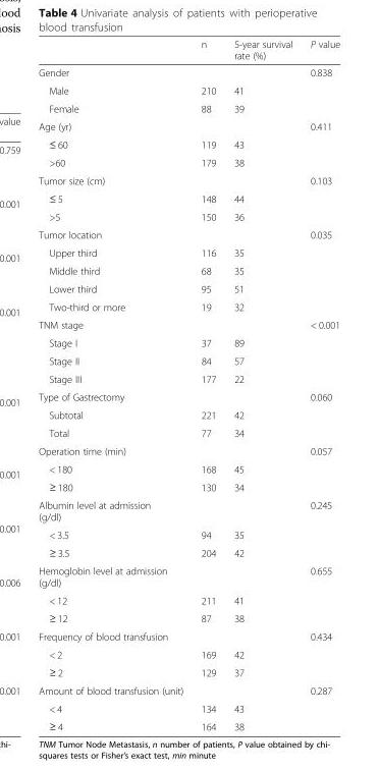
<table><thead><tr><td></td><td>n</td><td>5-year survival rate (%)</td><td>P value</td></tr></thead><tbody><tr><td>Gender</td><td></td><td></td><td>0.838</td></tr><tr><td>Male</td><td>210</td><td>41</td><td></td></tr><tr><td>Female</td><td>88</td><td>39</td><td></td></tr><tr><td>Age (yr)</td><td></td><td></td><td>0.411</td></tr><tr><td>≤ 60</td><td>119</td><td>43</td><td></td></tr><tr><td>&gt;60</td><td>179</td><td>38</td><td></td></tr><tr><td>Tumor size (cm)</td><td></td><td></td><td>0.103</td></tr><tr><td>≤ 5</td><td>148</td><td>44</td><td></td></tr><tr><td>&gt;5</td><td>150</td><td>36</td><td></td></tr><tr><td>Tumor location</td><td></td><td></td><td>0.035</td></tr><tr><td>Upper third</td><td>116</td><td>35</td><td></td></tr><tr><td>Middle third</td><td>68</td><td>35</td><td></td></tr><tr><td>Lower third</td><td>95</td><td>51</td><td></td></tr><tr><td>Two-third or more</td><td>19</td><td>32</td><td></td></tr><tr><td>TNM stage</td><td></td><td></td><td>&lt; 0.001</td></tr><tr><td>Stage I</td><td>37</td><td>89</td><td></td></tr><tr><td>Stage II</td><td>84</td><td>57</td><td></td></tr><tr><td>Stage III</td><td>177</td><td>22</td><td></td></tr><tr><td>Type of Gastrectomy</td><td></td><td></td><td>0.060</td></tr><tr><td>Subtotal</td><td>221</td><td>42</td><td></td></tr><tr><td>Total</td><td>77</td><td>34</td><td></td></tr><tr><td>Operation time (min)</td><td></td><td></td><td>0.057</td></tr><tr><td>&lt; 180</td><td>168</td><td>45</td><td></td></tr><tr><td>≥ 180</td><td>130</td><td>34</td><td></td></tr><tr><td>Albumin level at admission (g/dl)</td><td></td><td></td><td>0.245</td></tr><tr><td>&lt; 3.5</td><td>94</td><td>35</td><td></td></tr><tr><td>≥ 3.5</td><td>204</td><td>42</td><td></td></tr><tr><td>Hemoglobin level at admission (g/dl)</td><td></td><td></td><td>0.655</td></tr><tr><td>&lt; 12</td><td>211</td><td>41</td><td></td></tr><tr><td>≥ 12</td><td>87</td><td>38</td><td></td></tr><tr><td>Frequency of blood transfusion</td><td></td><td></td><td>0.434</td></tr><tr><td>&lt; 2</td><td>169</td><td>42</td><td></td></tr><tr><td>≥ 2</td><td>129</td><td>37</td><td></td></tr><tr><td>Amount of blood transfusion (unit)</td><td></td><td></td><td>0.287</td></tr><tr><td>&lt; 4</td><td>134</td><td>43</td><td></td></tr><tr><td>≥ 4</td><td>164</td><td>38</td><td></td></tr></tbody></table>